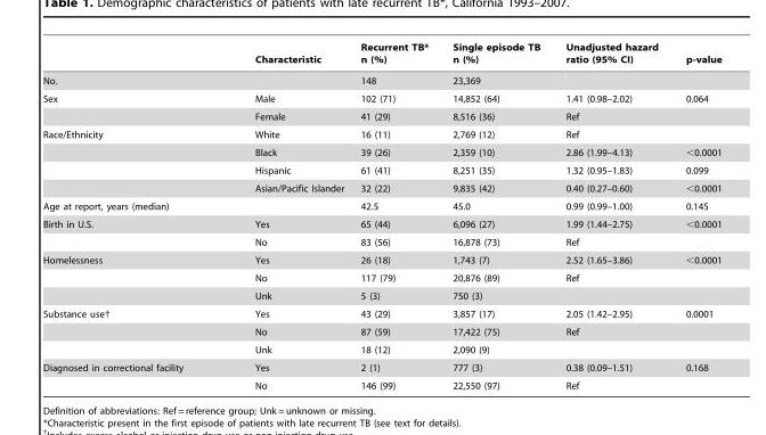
<table><thead><tr><td></td><td>Characteristic</td><td>Recurrent TB* n (%)</td><td>Single episode TB n (%)</td><td>Unadjusted hazard ratio (95% CI)</td><td>p-value</td></tr></thead><tbody><tr><td>No.</td><td></td><td>148</td><td>23,369</td><td></td><td></td></tr><tr><td rowspan="2">Sex</td><td>Male</td><td>102 (71)</td><td>14,852 (64)</td><td>1.41 (0.98–2.02)</td><td>0.064</td></tr><tr><td>Female</td><td>41 (29)</td><td>8,516 (36)</td><td>Ref</td><td></td></tr><tr><td rowspan="4">Race/Ethnicity</td><td>White</td><td>16 (11)</td><td>2,769 (12)</td><td>Ref</td><td></td></tr><tr><td>Black</td><td>39 (26)</td><td>2,359 (10)</td><td>2.86 (1.99–4.13)</td><td>&lt;0.0001</td></tr><tr><td>Hispanic</td><td>61 (41)</td><td>8,251 (35)</td><td>1.32 (0.95–1.83)</td><td>0.099</td></tr><tr><td>Asian/Pacific Islander</td><td>32 (22)</td><td>9,835 (42)</td><td>0.40 (0.27–0.60)</td><td>&lt;0.0001</td></tr><tr><td>Age at report, years (median)</td><td></td><td>42.5</td><td>45.0</td><td>0.99 (0.99–1.00)</td><td>0.145</td></tr><tr><td rowspan="2">Birth in U.S.</td><td>Yes</td><td>65 (44)</td><td>6,096 (27)</td><td>1.99 (1.44–2.75)</td><td>&lt;0.0001</td></tr><tr><td>No</td><td>83 (56)</td><td>16,878 (73)</td><td>Ref</td><td></td></tr><tr><td rowspan="3">Homelessness</td><td>Yes</td><td>26 (18)</td><td>1,743 (7)</td><td>2.52 (1.65–3.86)</td><td>&lt;0.0001</td></tr><tr><td>No</td><td>117 (79)</td><td>20,876 (89)</td><td>Ref</td><td></td></tr><tr><td>Unk</td><td>5 (3)</td><td>750 (3)</td><td></td><td></td></tr><tr><td rowspan="3">Substance use†</td><td>Yes</td><td>43 (29)</td><td>3,857 (17)</td><td>2.05 (1.42–2.95)</td><td>0.0001</td></tr><tr><td>No</td><td>87 (59)</td><td>17,422 (75)</td><td>Ref</td><td></td></tr><tr><td>Unk</td><td>18 (12)</td><td>2,090 (9)</td><td></td><td></td></tr><tr><td rowspan="2">Diagnosed in correctional facility</td><td>Yes</td><td>2 (1)</td><td>777 (3)</td><td>0.38 (0.09–1.51)</td><td>0.168</td></tr><tr><td>No</td><td>146 (99)</td><td>22,550 (97)</td><td>Ref</td><td></td></tr></tbody></table>